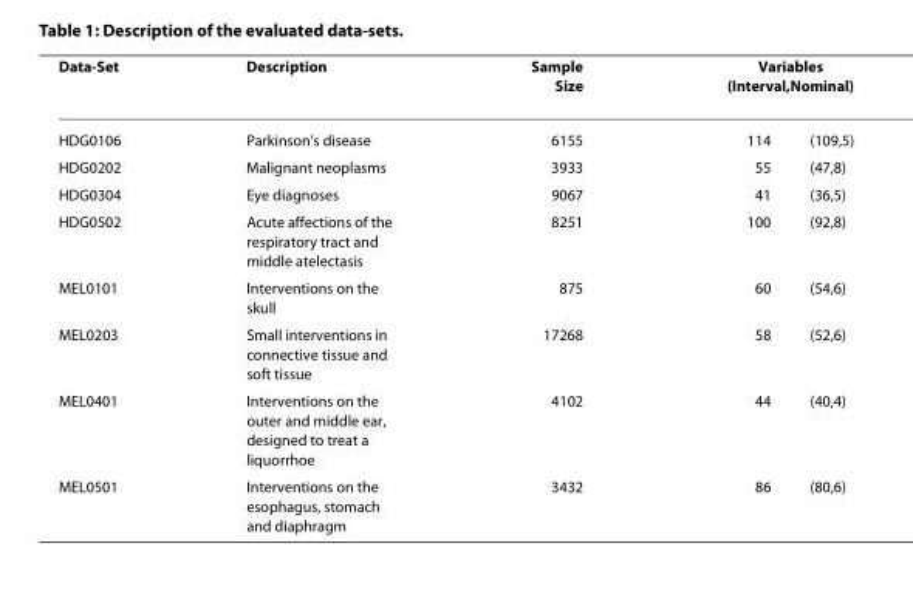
<table><thead><tr><td rowspan="2">Data-Set HDG0106</td><td rowspan="2">Description Parkinson&#x27;s disease</td><td rowspan="2">Sample Size 6155</td><td colspan="2">Variables (Interval,Nominal)</td></tr><tr><td>114</td><td>(109,5)</td></tr></thead><tbody><tr><td>HDG0202</td><td>Malignant neoplasms</td><td>3933</td><td>55</td><td>(47,8)</td></tr><tr><td>HDG0304</td><td>Eye diagnoses</td><td>9067</td><td>41</td><td>(36,5)</td></tr><tr><td>HDG0502</td><td>Acute affections of the respiratory tract and middle atelectasis</td><td>8251</td><td>100</td><td>(92,8)</td></tr><tr><td>MEL0101</td><td>Interventions on the skull</td><td>875</td><td>60</td><td>(54,6)</td></tr><tr><td>MEL0203</td><td>Small interventions in connective tissue and soft tissue</td><td>17268</td><td>58</td><td>(52,6)</td></tr><tr><td>MEL0401</td><td>Interventions on the outer and middle ear, designed to treat a liquorrhoe</td><td>4102</td><td>44</td><td>(40,4)</td></tr><tr><td>MEL0501</td><td>Interventions on the esophagus, stomach and diaphragm</td><td>3432</td><td>86</td><td>(80,6)</td></tr></tbody></table>